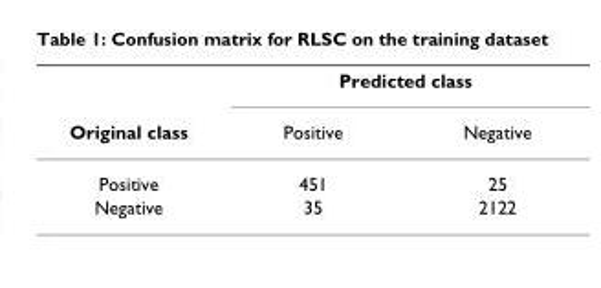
<table><thead><tr><td rowspan="2">Original class</td><td colspan="2">Predicted class</td></tr><tr><td>Positive</td><td>Negative</td></tr></thead><tbody><tr><td>Positive</td><td>451</td><td>25</td></tr><tr><td>Negative</td><td>35</td><td>2122</td></tr></tbody></table>